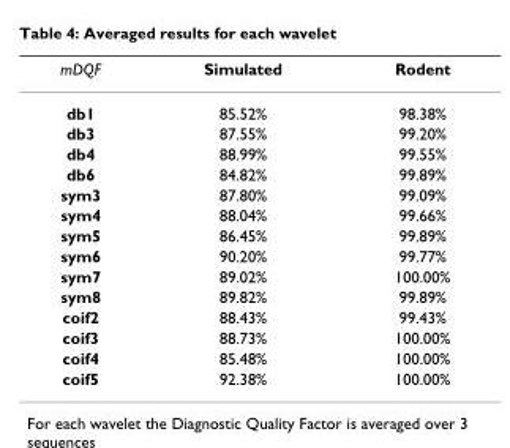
<table><thead><tr><td>mDQF</td><td>Simulated</td><td>Rodent</td></tr></thead><tbody><tr><td>db1</td><td>85.52%</td><td>98.38%</td></tr><tr><td>db3</td><td>87.55%</td><td>99.20%</td></tr><tr><td>db4</td><td>88.99%</td><td>99.55%</td></tr><tr><td>db6</td><td>84.82%</td><td>99.89%</td></tr><tr><td>sym3</td><td>87.80%</td><td>99.09%</td></tr><tr><td>sym4</td><td>88.04%</td><td>99.66%</td></tr><tr><td>sym5</td><td>86.45%</td><td>99.89%</td></tr><tr><td>sym6</td><td>90.20%</td><td>99.77%</td></tr><tr><td>sym7</td><td>89.02%</td><td>100.00%</td></tr><tr><td>sym8</td><td>89.82%</td><td>99.89%</td></tr><tr><td>coif2</td><td>88.43%</td><td>99.43%</td></tr><tr><td>coif3</td><td>88.73%</td><td>100.00%</td></tr><tr><td>coif4</td><td>85.48%</td><td>100.00%</td></tr><tr><td>coif5</td><td>92.38%</td><td>100.00%</td></tr></tbody></table>